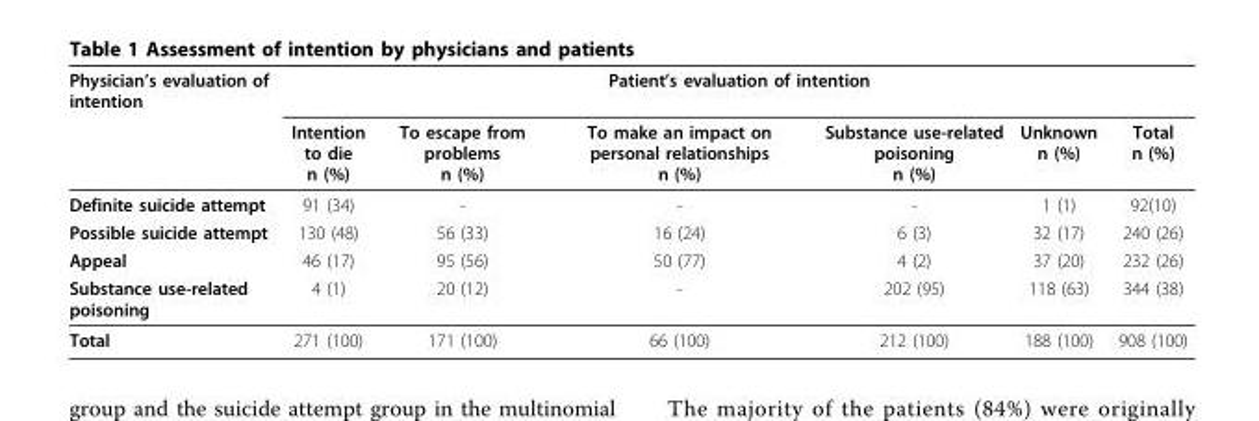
<table><thead><tr><td rowspan="2">Physician’s evaluation of intention</td><td colspan="6">Patient’s evaluation of intention</td></tr><tr><td>Intention to die n (%)</td><td>To escape from problems n (%)</td><td>To make an impact on personal relationships n (%)</td><td>Substance use-related poisoning n (%)</td><td>Unknown n (%)</td><td>Total n (%)</td></tr></thead><tbody><tr><td>Definite suicide attempt</td><td>91 (34)</td><td>-</td><td>-</td><td>-</td><td>1 (1)</td><td>92(10)</td></tr><tr><td>Possible suicide attempt</td><td>130 (48)</td><td>56 (33)</td><td>16 (24)</td><td>6 (3)</td><td>32 (17)</td><td>240 (26)</td></tr><tr><td>Appeal</td><td>46 (17)</td><td>95 (56)</td><td>50 (77)</td><td>4 (2)</td><td>37 (20)</td><td>232 (26)</td></tr><tr><td>Substance use-related poisoning</td><td>4 (1)</td><td>20 (12)</td><td>-</td><td>202 (95)</td><td>118 (63)</td><td>344 (38)</td></tr><tr><td>Total</td><td>271 (100)</td><td>171 (100)</td><td>66 (100)</td><td>212 (100)</td><td>188 (100)</td><td>908 (100)</td></tr></tbody></table>